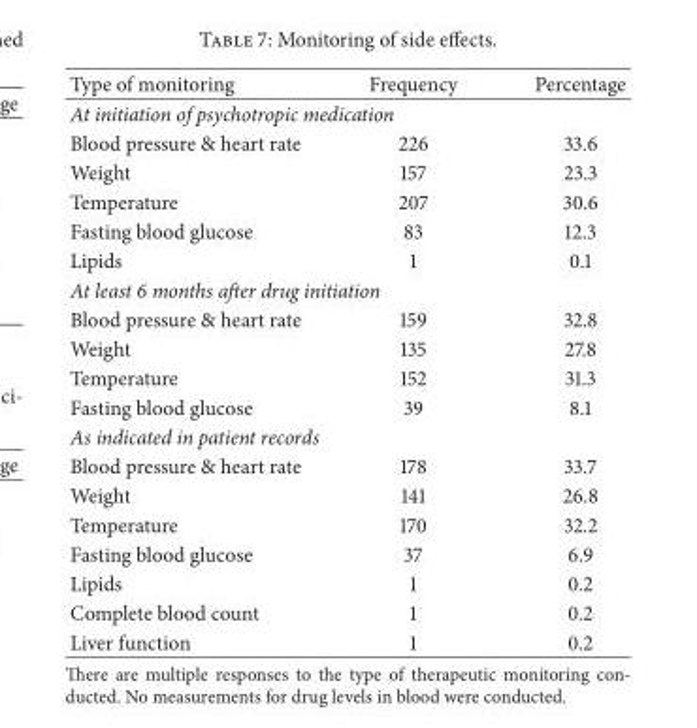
<table><thead><tr><td>Type of monitoring</td><td>Frequency</td><td>Percentage</td></tr></thead><tbody><tr><td colspan="3">At initiation of psychotropic medication</td></tr><tr><td>Blood pressure &amp; heart rate</td><td>226</td><td>33.6</td></tr><tr><td>Weight</td><td>157</td><td>23.3</td></tr><tr><td>Temperature</td><td>207</td><td>30.6</td></tr><tr><td>Fasting blood glucose</td><td>83</td><td>12.3</td></tr><tr><td>Lipids</td><td>1</td><td>0.1</td></tr><tr><td colspan="3">At least 6 months after drug initiation</td></tr><tr><td>Blood pressure &amp; heart rate</td><td>159</td><td>32.8</td></tr><tr><td>Weight</td><td>135</td><td>27.8</td></tr><tr><td>Temperature</td><td>152</td><td>31.3</td></tr><tr><td>Fasting blood glucose</td><td>39</td><td>8.1</td></tr><tr><td colspan="3">As indicated in patient records</td></tr><tr><td>Blood pressure &amp; heart rate</td><td>178</td><td>33.7</td></tr><tr><td>Weight</td><td>141</td><td>26.8</td></tr><tr><td>Temperature</td><td>170</td><td>32.2</td></tr><tr><td>Fasting blood glucose</td><td>37</td><td>6.9</td></tr><tr><td>Lipids</td><td>1</td><td>0.2</td></tr><tr><td>Complete blood count</td><td>1</td><td>0.2</td></tr><tr><td>Liver function</td><td>1</td><td>0.2</td></tr></tbody></table>